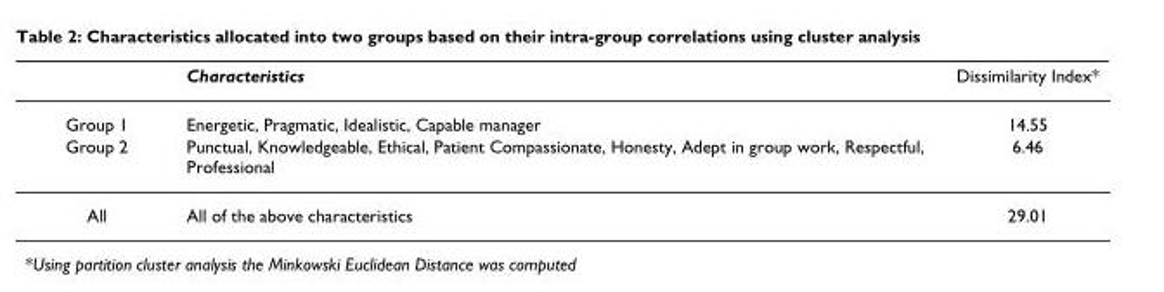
<table><thead><tr><td></td><td>Characteristics</td><td>Dissimilarity Index*</td></tr></thead><tbody><tr><td>Group 1</td><td>Energetic, Pragmatic, Idealistic, Capable manager</td><td>14.55</td></tr><tr><td>Group 2</td><td>Punctual, Knowledgeable, Ethical, Patient Compassionate, Honesty, Adept in group work, Respectful, Professional</td><td>6.46</td></tr><tr><td>All</td><td>All of the above characteristics</td><td>29.01</td></tr></tbody></table>